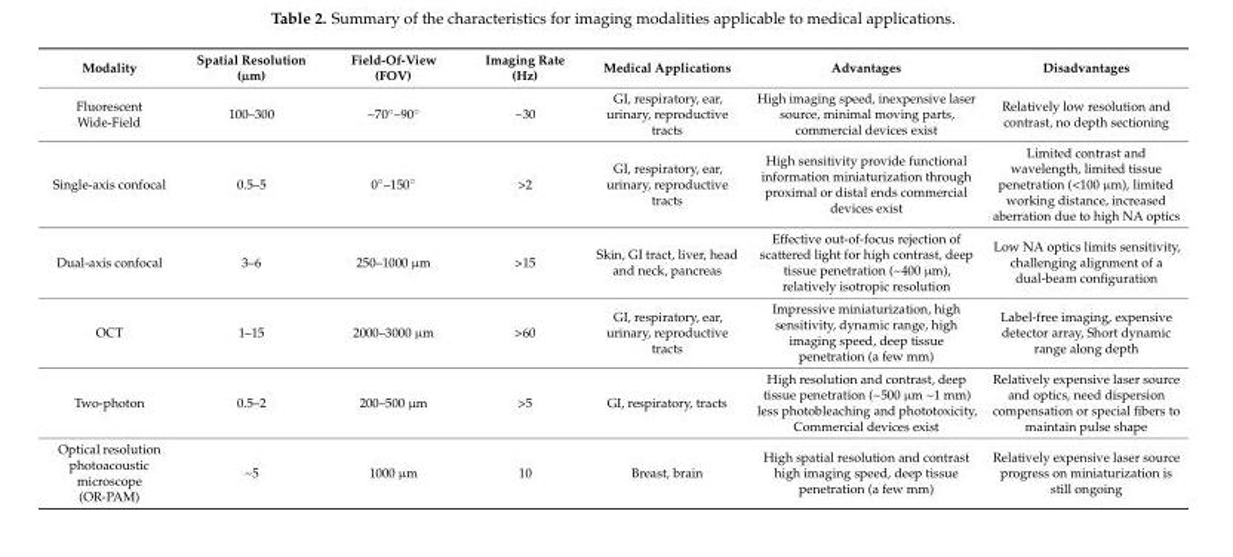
<table><thead><tr><td>Modality</td><td>Spatial Resolution (µm)</td><td>Field-Of-View (FOV)</td><td>Imaging Rate (Hz)</td><td>Medical Applications</td><td>Advantages</td><td>Disadvantages</td></tr></thead><tbody><tr><td>Fluorescent Wide-Field</td><td>100–300</td><td>~70◦–90◦</td><td>~30</td><td>GI, respiratory, ear, urinary, reproductive tracts</td><td>High imaging speed, inexpensive laser source, minimal moving parts, commercial devices exist</td><td>Relatively low resolution and contrast, no depth sectioning</td></tr><tr><td>Single-axis confocal</td><td>0.5–5</td><td>0◦–150◦</td><td>&gt;2</td><td>GI, respiratory, ear, urinary, reproductive tracts</td><td>High sensitivity provide functional information miniaturization through proximal or distal ends commercial devices exist</td><td>Limited contrast and wavelength, limited tissue penetration (&lt;100 µm), limited working distance, increased aberration due to high NA optics</td></tr><tr><td>Dual-axis confocal</td><td>3–6</td><td>250–1000 µm</td><td>&gt;15</td><td>Skin, GI tract, liver, head and neck, pancreas</td><td>Effective out-of-focus rejection of scattered light for high contrast, deep tissue penetration (~400 µm), relatively isotropic resolution</td><td>Low NA optics limits sensitivity, challenging alignment of a dual-beam configuration</td></tr><tr><td>OCT</td><td>1–15</td><td>2000–3000 µm</td><td>&gt;60</td><td>GI, respiratory, ear, urinary, reproductive tracts</td><td>Impressive miniaturization, high sensitivity, dynamic range, high imaging speed, deep tissue penetration (a few mm)</td><td>Label-free imaging, expensive detector array, Short dynamic range along depth</td></tr><tr><td>Two-photon</td><td>0.5–2</td><td>200–500 µm</td><td>&gt;5</td><td>GI, respiratory, tracts</td><td>High resolution and contrast, deep tissue penetration (~500 µm ~1 mm) less photobleaching and phototoxicity, Commercial devices exist</td><td>Relatively expensive laser source and optics, need dispersion compensation or special fibers to maintain pulse shape</td></tr><tr><td>Optical resolution photoacoustic microscope (OR-PAM)</td><td>~5</td><td>1000 µm</td><td>10</td><td>Breast, brain</td><td>High spatial resolution and contrast high imaging speed, deep tissue penetration (a few mm)</td><td>Relatively expensive laser source progress on miniaturization is still ongoing</td></tr></tbody></table>